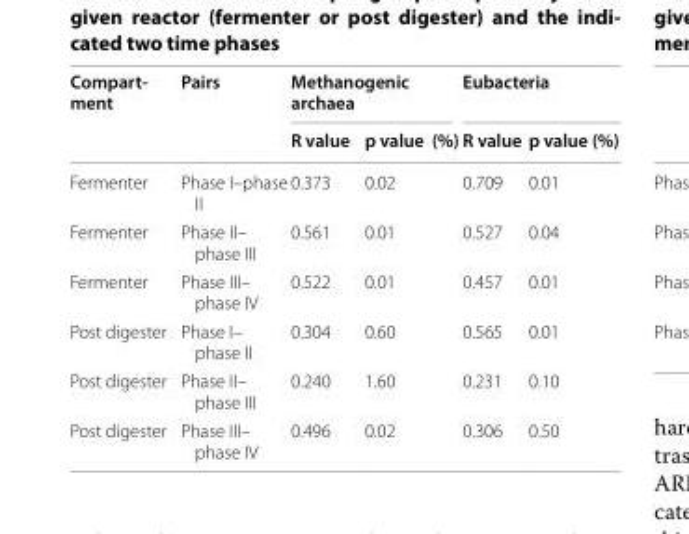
<table><thead><tr><td rowspan="2">Compart‑ ment</td><td rowspan="2">Pairs</td><td colspan="2">Methanogenic archaea</td><td colspan="2">Eubacteria</td></tr><tr><td>R value</td><td>p value (%)</td><td>R value</td><td>p value (%)</td></tr></thead><tbody><tr><td>Fermenter</td><td>Phase I–phase II</td><td>0.373</td><td>0.02</td><td>0.709</td><td>0.01</td></tr><tr><td>Fermenter</td><td>Phase II– phase III</td><td>0.561</td><td>0.01</td><td>0.527</td><td>0.04</td></tr><tr><td>Fermenter</td><td>Phase III– phase IV</td><td>0.522</td><td>0.01</td><td>0.457</td><td>0.01</td></tr><tr><td>Post digester</td><td>Phase I– phase II</td><td>0.304</td><td>0.60</td><td>0.565</td><td>0.01</td></tr><tr><td>Post digester</td><td>Phase II– phase III</td><td>0.240</td><td>1.60</td><td>0.231</td><td>0.10</td></tr><tr><td>Post digester</td><td>Phase III– phase IV</td><td>0.496</td><td>0.02</td><td>0.306</td><td>0.50</td></tr></tbody></table>